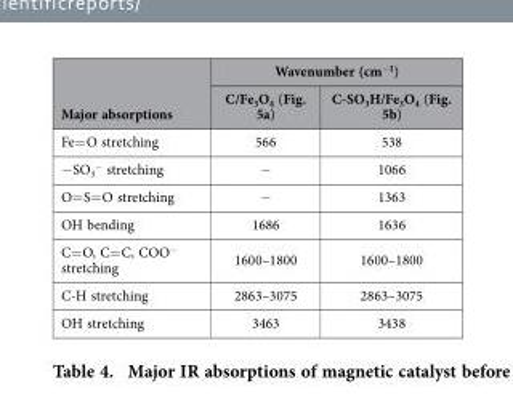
<table><thead><tr><td rowspan="2">Major absorptions</td><td colspan="2">Wavenumber (cm<sup>−1</sup>)</td></tr><tr><td>C/Fe<sub>3</sub>O<sub>4</sub> (Fig. 5a)</td><td>C-SO<sub>3</sub>H/Fe<sub>3</sub>O<sub>4</sub> (Fig. 5b)</td></tr></thead><tbody><tr><td>Fe= O stretching</td><td>566</td><td>538</td></tr><tr><td>− SO<sub>3</sub> <sup>−</sup> stretching</td><td>−</td><td>1066</td></tr><tr><td>O= S= O stretching</td><td>−</td><td>1363</td></tr><tr><td>OH bending</td><td>1686</td><td>1636</td></tr><tr><td>C= O, C= C, COO<sup>−</sup> stretching</td><td>1600–1800</td><td>1600–1800</td></tr><tr><td>C-H stretching</td><td>2863–3075</td><td>2863–3075</td></tr><tr><td>OH stretching</td><td>3463</td><td>3438</td></tr></tbody></table>